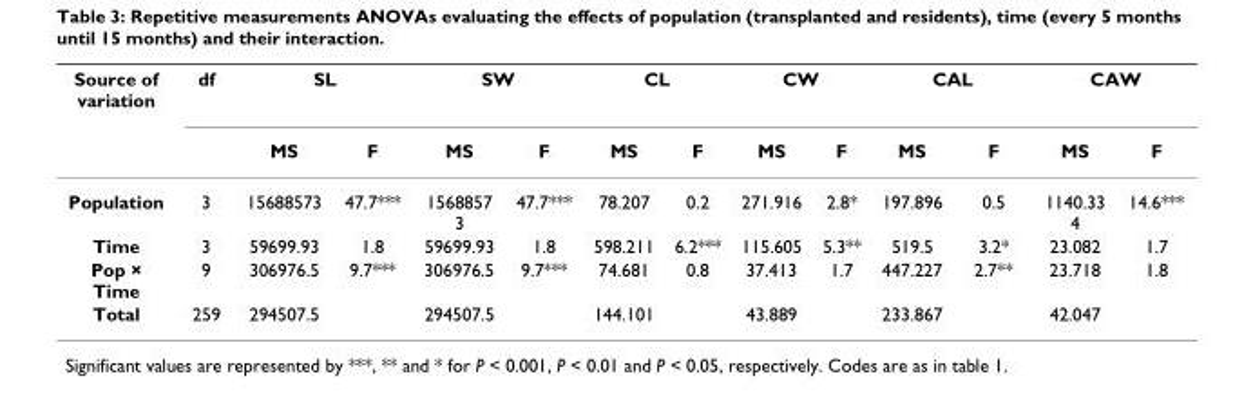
<table><thead><tr><td rowspan="2">Source of variation</td><td rowspan="2">df</td><td colspan="2">SL</td><td colspan="2">SW</td><td colspan="2">CL</td><td colspan="2">CW</td><td colspan="2">CAL</td><td colspan="2">CAW</td></tr><tr><td>MS</td><td>F</td><td>MS</td><td>F</td><td>MS</td><td>F</td><td>MS</td><td>F</td><td>MS</td><td>F</td><td>MS</td><td>F</td></tr></thead><tbody><tr><td>Population</td><td>3</td><td>15688573</td><td>47.7***</td><td>1568857 3</td><td>47.7***</td><td>78.207</td><td>0.2</td><td>271.916</td><td>2.8*</td><td>197.896</td><td>0.5</td><td>1140.33 4</td><td>14.6***</td></tr><tr><td>Time</td><td>3</td><td>59699.93</td><td>1.8</td><td>59699.93</td><td>1.8</td><td>598.211</td><td>6.2***</td><td>115.605</td><td>5.3**</td><td>519.5</td><td>3.2*</td><td>23.082</td><td>1.7</td></tr><tr><td>Pop × Time</td><td>9</td><td>306976.5</td><td>9.7***</td><td>306976.5</td><td>9.7***</td><td>74.681</td><td>0.8</td><td>37.413</td><td>1.7</td><td>447.227</td><td>2.7**</td><td>23.718</td><td>1.8</td></tr><tr><td>Total</td><td>259</td><td>294507.5</td><td></td><td>294507.5</td><td></td><td>144.101</td><td></td><td>43.889</td><td></td><td>233.867</td><td></td><td>42.047</td><td></td></tr></tbody></table>